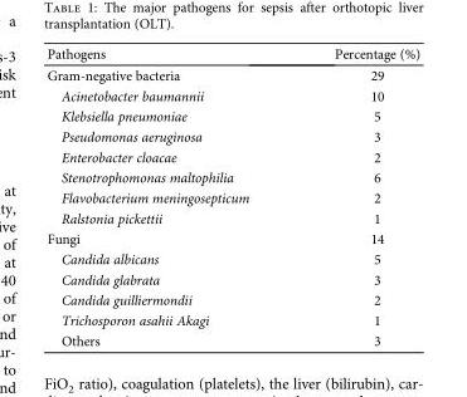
<table><thead><tr><td>Pathogens</td><td>Percentage (%)</td></tr></thead><tbody><tr><td>Gram-negative bacteria</td><td>29</td></tr><tr><td>Acinetobacter baumannii</td><td>10</td></tr><tr><td>Klebsiella pneumoniae</td><td>5</td></tr><tr><td>Pseudomonas aeruginosa</td><td>3</td></tr><tr><td>Enterobacter cloacae</td><td>2</td></tr><tr><td>Stenotrophomonas maltophilia</td><td>6</td></tr><tr><td>Flavobacterium meningosepticum</td><td>2</td></tr><tr><td>Ralstonia pickettii</td><td>1</td></tr><tr><td>Fungi</td><td>14</td></tr><tr><td>Candida albicans</td><td>5</td></tr><tr><td>Candida glabrata</td><td>3</td></tr><tr><td>Candida guilliermondii</td><td>2</td></tr><tr><td>Trichosporon asahii Akagi</td><td>1</td></tr><tr><td>Others</td><td>3</td></tr></tbody></table>